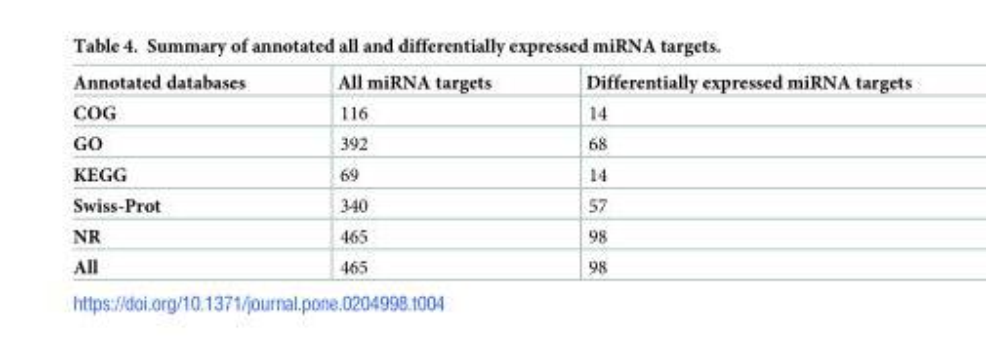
<table><thead><tr><td>Annotated databases</td><td>All miRNA targets</td><td>Differentially expressed miRNA targets</td></tr></thead><tbody><tr><td>COG</td><td>116</td><td>14</td></tr><tr><td>GO</td><td>392</td><td>68</td></tr><tr><td>KEGG</td><td>69</td><td>14</td></tr><tr><td>Swiss-Prot</td><td>340</td><td>57</td></tr><tr><td>NR</td><td>465</td><td>98</td></tr><tr><td>All</td><td>465</td><td>98</td></tr></tbody></table>